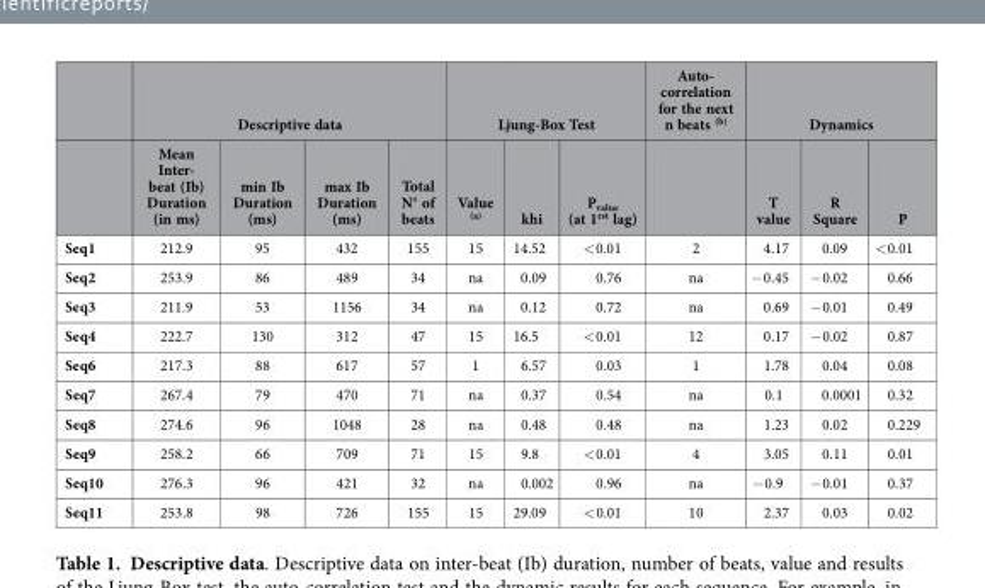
<table><thead><tr><td rowspan="2"></td><td colspan="4">Descriptive data</td><td colspan="3">Ljung-Box Test</td><td rowspan="2">Auto- correlation for the next n beats (b)</td><td colspan="3">Dynamics</td></tr><tr><td>Mean Inter- beat (Ib) Duration (in ms)</td><td>min Ib Duration (ms)</td><td>max Ib Duration (ms)</td><td>Total N° of beats</td><td>Value (a)</td><td>khi</td><td>P<sub>value</sub> (at 1<sup>rst</sup> lag)</td><td>T value</td><td>R Square</td><td>P</td></tr></thead><tbody><tr><td>Seq1</td><td>212.9</td><td>95</td><td>432</td><td>155</td><td>15</td><td>14.52</td><td>&lt; 0.01</td><td>2</td><td>4.17</td><td>0.09</td><td>&lt; 0.01</td></tr><tr><td>Seq2</td><td>253.9</td><td>86</td><td>489</td><td>34</td><td>na</td><td>0.09</td><td>0.76</td><td>na</td><td>− 0.45</td><td>− 0.02</td><td>0.66</td></tr><tr><td>Seq3</td><td>211.9</td><td>53</td><td>1156</td><td>34</td><td>na</td><td>0.12</td><td>0.72</td><td>na</td><td>0.69</td><td>− 0.01</td><td>0.49</td></tr><tr><td>Seq4</td><td>222.7</td><td>130</td><td>312</td><td>47</td><td>15</td><td>16.5</td><td>&lt; 0.01</td><td>12</td><td>0.17</td><td>− 0.02</td><td>0.87</td></tr><tr><td>Seq6</td><td>217.3</td><td>88</td><td>617</td><td>57</td><td>1</td><td>6.57</td><td>0.03</td><td>1</td><td>1.78</td><td>0.04</td><td>0.08</td></tr><tr><td>Seq7</td><td>267.4</td><td>79</td><td>470</td><td>71</td><td>na</td><td>0.37</td><td>0.54</td><td>na</td><td>0.1</td><td>0.0001</td><td>0.32</td></tr><tr><td>Seq8</td><td>274.6</td><td>96</td><td>1048</td><td>28</td><td>na</td><td>0.48</td><td>0.48</td><td>na</td><td>1.23</td><td>0.02</td><td>0.229</td></tr><tr><td>Seq9</td><td>258.2</td><td>66</td><td>709</td><td>71</td><td>15</td><td>9.8</td><td>&lt; 0.01</td><td>4</td><td>3.05</td><td>0.11</td><td>0.01</td></tr><tr><td>Seq10</td><td>276.3</td><td>96</td><td>421</td><td>32</td><td>na</td><td>0.002</td><td>0.96</td><td>na</td><td>− 0.9</td><td>− 0.01</td><td>0.37</td></tr><tr><td>Seq11</td><td>253.8</td><td>98</td><td>726</td><td>155</td><td>15</td><td>29.09</td><td>&lt; 0.01</td><td>10</td><td>2.37</td><td>0.03</td><td>0.02</td></tr></tbody></table>